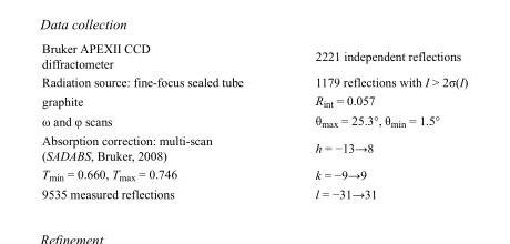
<table><tbody><tr><td>Bruker APEXII CCD diffractometer</td><td>2221 independent reflections</td></tr><tr><td>Radiation source: fine-focus sealed tube</td><td>1179 reflections with I &gt; 2σ(I)</td></tr><tr><td>graphite</td><td>R<sub>int</sub> = 0.057</td></tr><tr><td>ω and φ scans</td><td>θ<sub>max</sub> = 25.3°, θ<sub>min</sub> = 1.5°</td></tr><tr><td>Absorption correction: multi-scan (SADABS, Bruker, 2008)</td><td>h = −13→8</td></tr><tr><td>T<sub>min</sub> = 0.660, T<sub>max</sub> = 0.746</td><td>k = −9→9</td></tr><tr><td>9535 measured reflections</td><td>l = −31→31</td></tr></tbody></table>